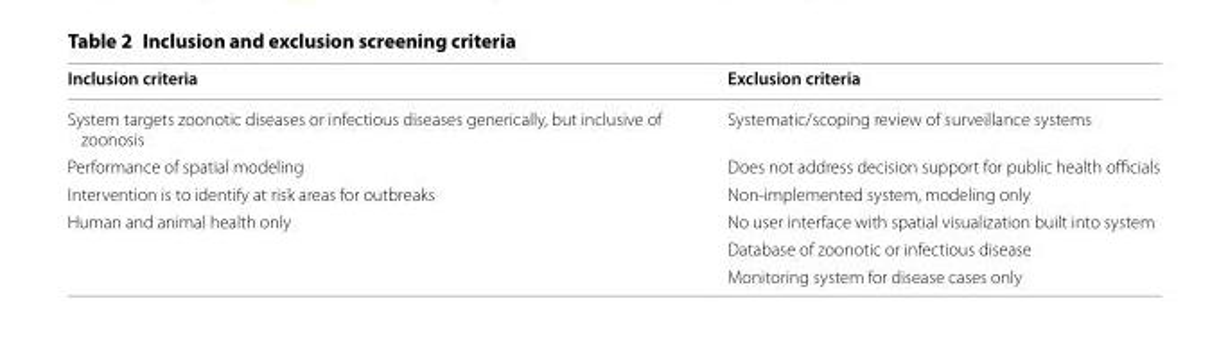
<table><thead><tr><td>Inclusion criteria</td><td>Exclusion criteria</td></tr></thead><tbody><tr><td>System targets zoonotic diseases or infectious diseases generically, but inclusive of zoonosis</td><td>Systematic/scoping review of surveillance systems</td></tr><tr><td>Performance of spatial modeling</td><td>Does not address decision support for public health officials</td></tr><tr><td>Intervention is to identify at risk areas for outbreaks</td><td>Non-implemented system, modeling only</td></tr><tr><td rowspan="3">Human and animal health only</td><td>No user interface with spatial visualization built into system</td></tr><tr><td>Database of zoonotic or infectious disease</td></tr><tr><td>Monitoring system for disease cases only</td></tr></tbody></table>